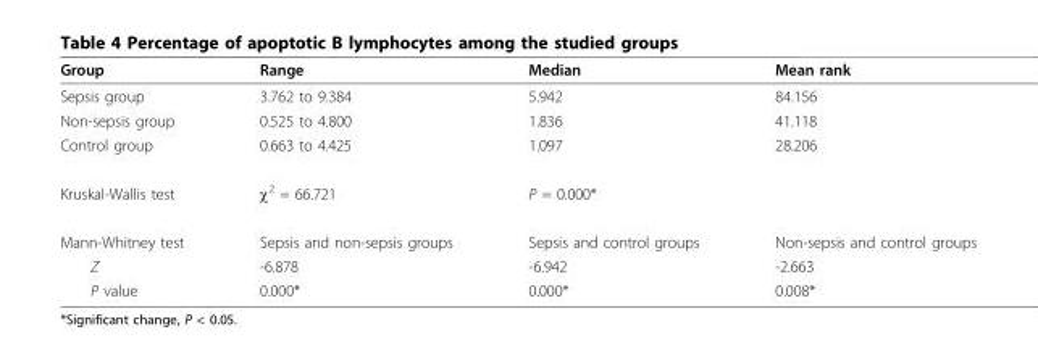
<table><thead><tr><td>Group</td><td>Range</td><td>Median</td><td>Mean rank</td></tr></thead><tbody><tr><td>Sepsis group</td><td>3.762 to 9.384</td><td>5.942</td><td>84.156</td></tr><tr><td>Non-sepsis group</td><td>0.525 to 4.800</td><td>1.836</td><td>41.118</td></tr><tr><td>Control group</td><td>0.663 to 4.425</td><td>1.097</td><td>28.206</td></tr><tr><td>Kruskal-Wallis test</td><td>χ<sup>2</sup> = 66.721</td><td>P = 0.000*</td><td></td></tr><tr><td>Mann-Whitney test</td><td>Sepsis and non-sepsis groups</td><td>Sepsis and control groups</td><td>Non-sepsis and control groups</td></tr><tr><td>Z</td><td>-6.878</td><td>-6.942</td><td>-2.663</td></tr><tr><td>P value</td><td>0.000*</td><td>0.000*</td><td>0.008*</td></tr></tbody></table>